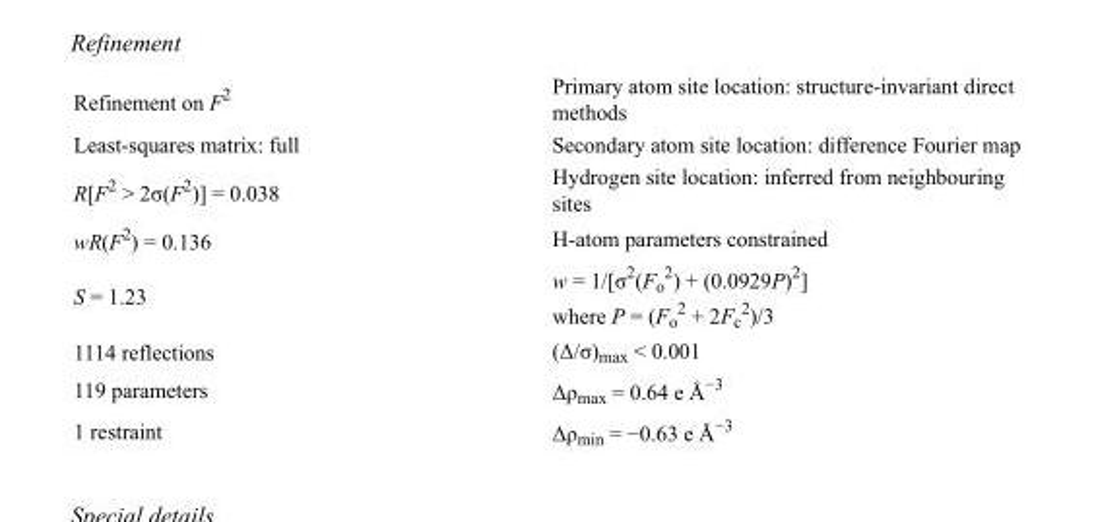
<table><tbody><tr><td>Refinement on F<sup>2</sup></td><td>Primary atom site location: structure-invariant direct methods</td></tr><tr><td>Least-squares matrix: full</td><td>Secondary atom site location: difference Fourier map</td></tr><tr><td>R[F<sup>2</sup> &gt; 2σ(F<sup>2</sup>)] = 0.038</td><td>Hydrogen site location: inferred from neighbouring sites</td></tr><tr><td>wR(F<sup>2</sup>) = 0.136</td><td>H-atom parameters constrained</td></tr><tr><td>S = 1.23</td><td>w = 1/[σ<sup>2</sup>(F<sub>o</sub> <sup>2</sup>) + (0.0929P)<sup>2</sup>] where P = (F<sub>o</sub> <sup>2</sup> + 2F<sub>c</sub> <sup>2</sup>)/3</td></tr><tr><td>1114 reflections</td><td>(Δ/σ)<sub>max</sub> &lt; 0.001</td></tr><tr><td>119 parameters</td><td>Δρ<sub>max</sub> = 0.64 e Å<sup>−3</sup></td></tr><tr><td>1 restraint</td><td>Δρ<sub>min</sub> = −0.63 e Å<sup>−3</sup></td></tr></tbody></table>